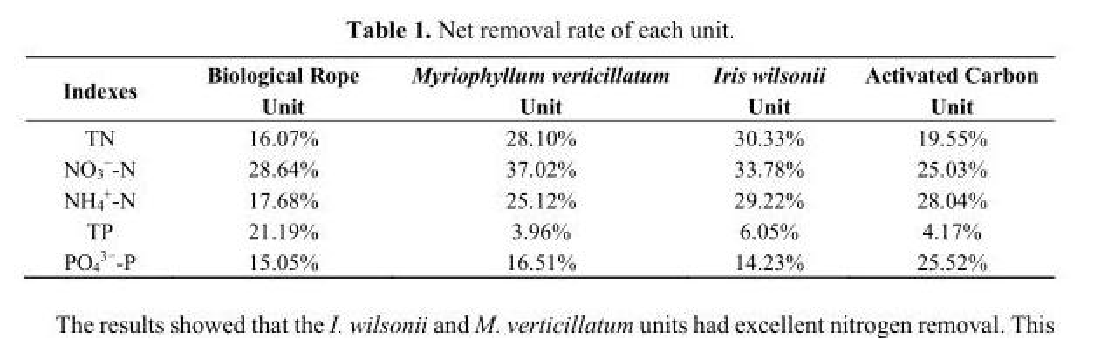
<table><thead><tr><td>Indexes</td><td>Biological Rope Unit</td><td>Myriophyllum verticillatum Unit</td><td>Iris wilsonii Unit</td><td>Activated Carbon Unit</td></tr></thead><tbody><tr><td>TN</td><td>16.07%</td><td>28.10%</td><td>30.33%</td><td>19.55%</td></tr><tr><td>NO<sub>3</sub><sup>−</sup>-N</td><td>28.64%</td><td>37.02%</td><td>33.78%</td><td>25.03%</td></tr><tr><td>NH<sub>4</sub><sup>+</sup>-N</td><td>17.68%</td><td>25.12%</td><td>29.22%</td><td>28.04%</td></tr><tr><td>TP</td><td>21.19%</td><td>3.96%</td><td>6.05%</td><td>4.17%</td></tr><tr><td>PO<sub>4</sub><sup>3−</sup>-P</td><td>15.05%</td><td>16.51%</td><td>14.23%</td><td>25.52%</td></tr></tbody></table>